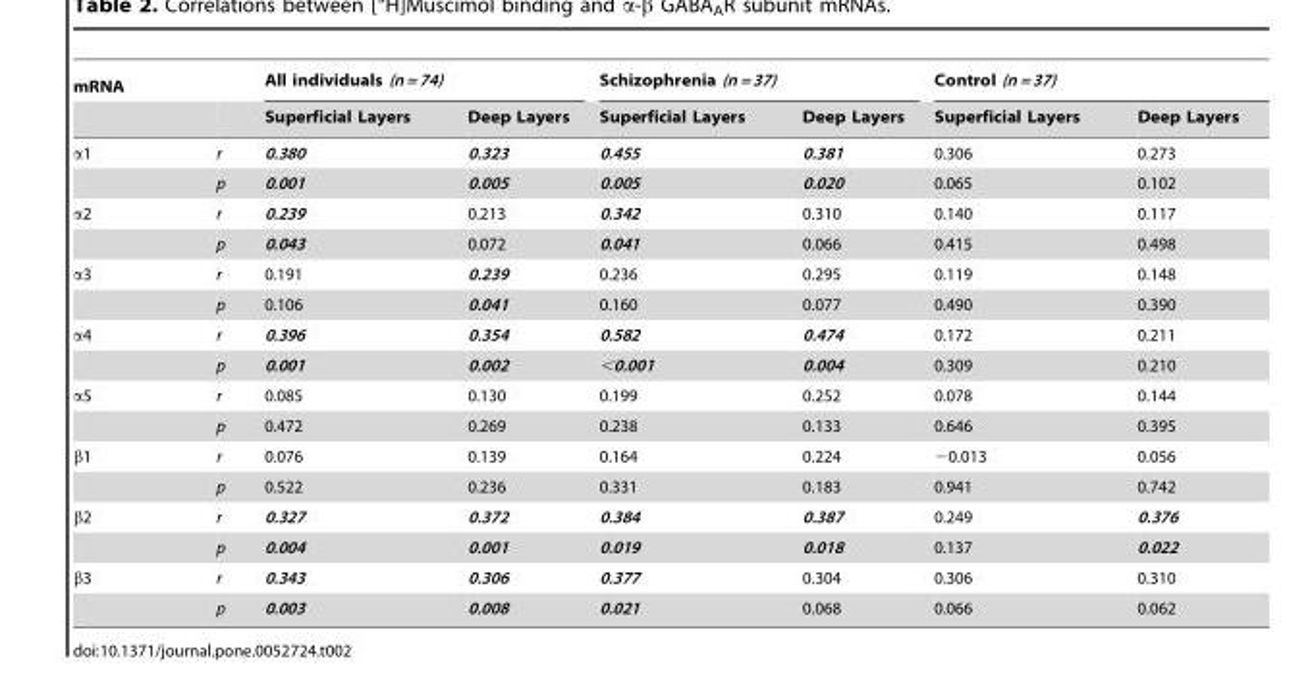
<table><thead><tr><td rowspan="2">mRNA</td><td rowspan="2"></td><td colspan="2">All individuals (n = 74)</td><td colspan="2">Schizophrenia (n = 37)</td><td colspan="2">Control (n = 37)</td></tr><tr><td>Superficial Layers</td><td>Deep Layers</td><td>Superficial Layers</td><td>Deep Layers</td><td>Superficial Layers</td><td>Deep Layers</td></tr></thead><tbody><tr><td rowspan="2">α1</td><td>r</td><td>0.380</td><td>0.323</td><td>0.455</td><td>0.381</td><td>0.306</td><td>0.273</td></tr><tr><td>p</td><td>0.001</td><td>0.005</td><td>0.005</td><td>0.020</td><td>0.065</td><td>0.102</td></tr><tr><td rowspan="2">α2</td><td>r</td><td>0.239</td><td>0.213</td><td>0.342</td><td>0.310</td><td>0.140</td><td>0.117</td></tr><tr><td>p</td><td>0.043</td><td>0.072</td><td>0.041</td><td>0.066</td><td>0.415</td><td>0.498</td></tr><tr><td rowspan="2">α3</td><td>r</td><td>0.191</td><td>0.239</td><td>0.236</td><td>0.295</td><td>0.119</td><td>0.148</td></tr><tr><td>p</td><td>0.106</td><td>0.041</td><td>0.160</td><td>0.077</td><td>0.490</td><td>0.390</td></tr><tr><td rowspan="2">α4</td><td>r</td><td>0.396</td><td>0.354</td><td>0.582</td><td>0.474</td><td>0.172</td><td>0.211</td></tr><tr><td>p</td><td>0.001</td><td>0.002</td><td>&lt;0.001</td><td>0.004</td><td>0.309</td><td>0.210</td></tr><tr><td rowspan="2">α5</td><td>r</td><td>0.085</td><td>0.130</td><td>0.199</td><td>0.252</td><td>0.078</td><td>0.144</td></tr><tr><td>p</td><td>0.472</td><td>0.269</td><td>0.238</td><td>0.133</td><td>0.646</td><td>0.395</td></tr><tr><td rowspan="2">β1</td><td>r</td><td>0.076</td><td>0.139</td><td>0.164</td><td>0.224</td><td>−0.013</td><td>0.056</td></tr><tr><td>p</td><td>0.522</td><td>0.236</td><td>0.331</td><td>0.183</td><td>0.941</td><td>0.742</td></tr><tr><td rowspan="2">β2</td><td>r</td><td>0.327</td><td>0.372</td><td>0.384</td><td>0.387</td><td>0.249</td><td>0.376</td></tr><tr><td>p</td><td>0.004</td><td>0.001</td><td>0.019</td><td>0.018</td><td>0.137</td><td>0.022</td></tr><tr><td rowspan="2">β3</td><td>r</td><td>0.343</td><td>0.306</td><td>0.377</td><td>0.304</td><td>0.306</td><td>0.310</td></tr><tr><td>p</td><td>0.003</td><td>0.008</td><td>0.021</td><td>0.068</td><td>0.066</td><td>0.062</td></tr></tbody></table>